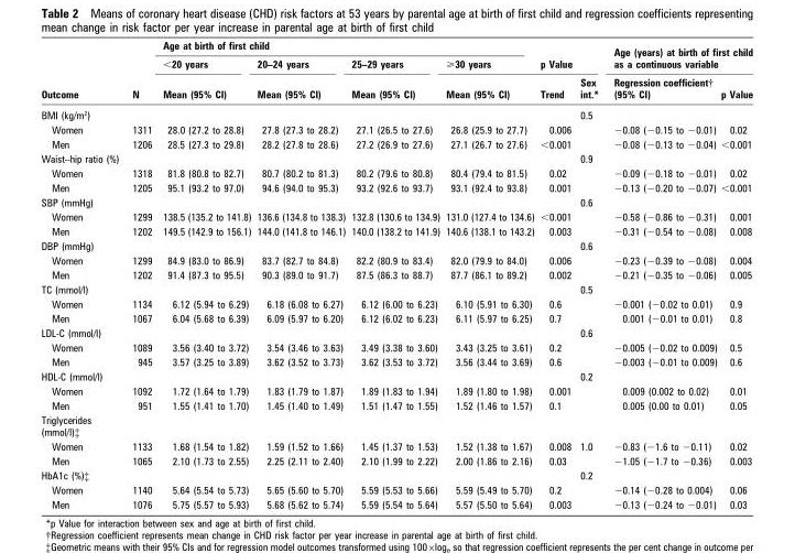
<table><thead><tr><td rowspan="3">Outcome</td><td rowspan="3">N</td><td colspan="4">Age at birth of first child</td><td rowspan="2" colspan="2">p Value</td><td rowspan="2" colspan="2">Age (years) at birth of first child as a continuous variable</td></tr><tr><td rowspan="2">&lt;20 years Mean (95% CI)</td><td rowspan="2">20–24 years Mean (95% CI)</td><td rowspan="2">25–29 years Mean (95% CI)</td><td rowspan="2">&gt;30 years Mean (95% CI)</td></tr><tr><td>Trend</td><td>Sex int.*</td><td>Regression coefficient† (95% CI)</td><td>p Value</td></tr></thead><tbody><tr><td>BMI (kg/m<sup>2</sup>)</td><td></td><td></td><td></td><td></td><td></td><td></td><td>0.5</td><td></td><td></td></tr><tr><td>Women</td><td>1311</td><td>28.0 (27.2 to 28.8)</td><td>27.8 (27.3 to 28.2)</td><td>27.1 (26.5 to 27.6)</td><td>26.8 (25.9 to 27.7)</td><td>0.006</td><td></td><td>−0.08 (−0.15 to −0.01)</td><td>0.02</td></tr><tr><td>Men</td><td>1206</td><td>28.5 (27.3 to 29.8)</td><td>28.2 (27.8 to 28.6)</td><td>27.2 (26.9 to 27.6)</td><td>27.1 (26.7 to 27.6)</td><td>&lt;0.001</td><td></td><td>−0.08 (−0.13 to −0.04)</td><td>&lt;0.001</td></tr><tr><td>Waist–hip ratio (%)</td><td></td><td></td><td></td><td></td><td></td><td></td><td>0.9</td><td></td><td></td></tr><tr><td>Women</td><td>1318</td><td>81.8 (80.8 to 82.7)</td><td>80.7 (80.2 to 81.3)</td><td>80.2 (79.6 to 80.8)</td><td>80.4 (79.4 to 81.5)</td><td>0.02</td><td></td><td>−0.09 (−0.18 to −0.01)</td><td>0.02</td></tr><tr><td>Men</td><td>1205</td><td>95.1 (93.2 to 97.0)</td><td>94.6 (94.0 to 95.3)</td><td>93.2 (92.6 to 93.7)</td><td>93.1 (92.4 to 93.8)</td><td>0.001</td><td></td><td>−0.13 (−0.20 to −0.07)</td><td>&lt;0.001</td></tr><tr><td>SBP (mmHg)</td><td></td><td></td><td></td><td></td><td></td><td></td><td>0.6</td><td></td><td></td></tr><tr><td>Women</td><td>1299</td><td>138.5 (135.2 to 141.8)</td><td>136.6 (134.8 to 138.3)</td><td>132.8 (130.6 to 134.9)</td><td>131.0 (127.4 to 134.6)</td><td>&lt;0.001</td><td></td><td>−0.58 (−0.86 to −0.31)</td><td>0.001</td></tr><tr><td>Men</td><td>1202</td><td>149.5 (142.9 to 156.1)</td><td>144.0 (141.8 to 146.1)</td><td>140.0 (138.2 to 141.9)</td><td>140.6 (138.1 to 143.2)</td><td>0.003</td><td></td><td>−0.31 (−0.54 to −0.08)</td><td>0.008</td></tr><tr><td>DBP (mmHg)</td><td></td><td></td><td></td><td></td><td></td><td></td><td>0.6</td><td></td><td></td></tr><tr><td>Women</td><td>1299</td><td>84.9 (83.0 to 86.9)</td><td>83.7 (82.7 to 84.8)</td><td>82.2 (80.9 to 83.4)</td><td>82.0 (79.9 to 84.0)</td><td>0.006</td><td></td><td>−0.23 (−0.39 to −0.08)</td><td>0.004</td></tr><tr><td>Men</td><td>1202</td><td>91.4 (87.3 to 95.5)</td><td>90.3 (89.0 to 91.7)</td><td>87.5 (86.3 to 88.7)</td><td>87.7 (86.1 to 89.2)</td><td>0.002</td><td></td><td>−0.21 (−0.35 to −0.06)</td><td>0.005</td></tr><tr><td>TC (mmol/l)</td><td></td><td></td><td></td><td></td><td></td><td></td><td>0.5</td><td></td><td></td></tr><tr><td>Women</td><td>1134</td><td>6.12 (5.94 to 6.29)</td><td>6.18 (6.08 to 6.27)</td><td>6.12 (6.00 to 6.23)</td><td>6.10 (5.91 to 6.30)</td><td>0.6</td><td></td><td>−0.001 (−0.02 to 0.01)</td><td>0.9</td></tr><tr><td>Men</td><td>1067</td><td>6.04 (5.68 to 6.39)</td><td>6.09 (5.97 to 6.20)</td><td>6.12 (6.02 to 6.23)</td><td>6.11 (5.97 to 6.25)</td><td>0.7</td><td></td><td>0.001 (−0.01 to 0.01)</td><td>0.8</td></tr><tr><td>LDL-C (mmol/l)</td><td></td><td></td><td></td><td></td><td></td><td></td><td>0.6</td><td></td><td></td></tr><tr><td>Women</td><td>1089</td><td>3.56 (3.40 to 3.72)</td><td>3.54 (3.46 to 3.63)</td><td>3.49 (3.38 to 3.60)</td><td>3.43 (3.25 to 3.61)</td><td>0.2</td><td></td><td>−0.005 (−0.02 to 0.009)</td><td>0.5</td></tr><tr><td>Men</td><td>945</td><td>3.57 (3.25 to 3.89)</td><td>3.62 (3.52 to 3.73)</td><td>3.62 (3.53 to 3.72)</td><td>3.56 (3.44 to 3.69)</td><td>0.6</td><td></td><td>−0.003 (−0.01 to 0.009)</td><td>0.6</td></tr><tr><td>HDL-C (mmol/l)</td><td></td><td></td><td></td><td></td><td></td><td></td><td>0.2</td><td></td><td></td></tr><tr><td>Women</td><td>1092</td><td>1.72 (1.64 to 1.79)</td><td>1.83 (1.79 to 1.87)</td><td>1.89 (1.83 to 1.94)</td><td>1.89 (1.80 to 1.98)</td><td>0.001</td><td></td><td>0.009 (0.002 to 0.02)</td><td>0.01</td></tr><tr><td>Men</td><td>951</td><td>1.55 (1.41 to 1.70)</td><td>1.45 (1.40 to 1.49)</td><td>1.51 (1.47 to 1.55)</td><td>1.52 (1.46 to 1.57)</td><td>0.1</td><td></td><td>0.005 (0.00 to 0.01)</td><td>0.05</td></tr><tr><td colspan="10">Triglycerides (mmol/l)‡</td></tr><tr><td>Women</td><td>1133</td><td>1.68 (1.54 to 1.82)</td><td>1.59 (1.52 to 1.66)</td><td>1.45 (1.37 to 1.53)</td><td>1.52 (1.38 to 1.67)</td><td>0.008</td><td>1.0</td><td>−0.83 (−1.6 to −0.11)</td><td>0.02</td></tr><tr><td>Men</td><td>1065</td><td>2.10 (1.73 to 2.55)</td><td>2.25 (2.11 to 2.40)</td><td>2.10 (1.99 to 2.22)</td><td>2.00 (1.86 to 2.16)</td><td>0.03</td><td></td><td>−1.05 (−1.7 to −0.36)</td><td>0.003</td></tr><tr><td>HbA1c (%)‡</td><td></td><td></td><td></td><td></td><td></td><td></td><td>0.2</td><td></td><td></td></tr><tr><td>Women</td><td>1140</td><td>5.64 (5.54 to 5.73)</td><td>5.65 (5.60 to 5.70)</td><td>5.59 (5.53 to 5.66)</td><td>5.59 (5.49 to 5.70)</td><td>0.2</td><td></td><td>−0.14 (−0.28 to 0.004)</td><td>0.06</td></tr><tr><td>Men</td><td>1076</td><td>5.75 (5.57 to 5.93)</td><td>5.68 (5.62 to 5.74)</td><td>5.59 (5.54 to 5.64)</td><td>5.57 (5.50 to 5.64)</td><td>0.003</td><td></td><td>−0.13 (−0.24 to −0.01)</td><td>0.03</td></tr></tbody></table>